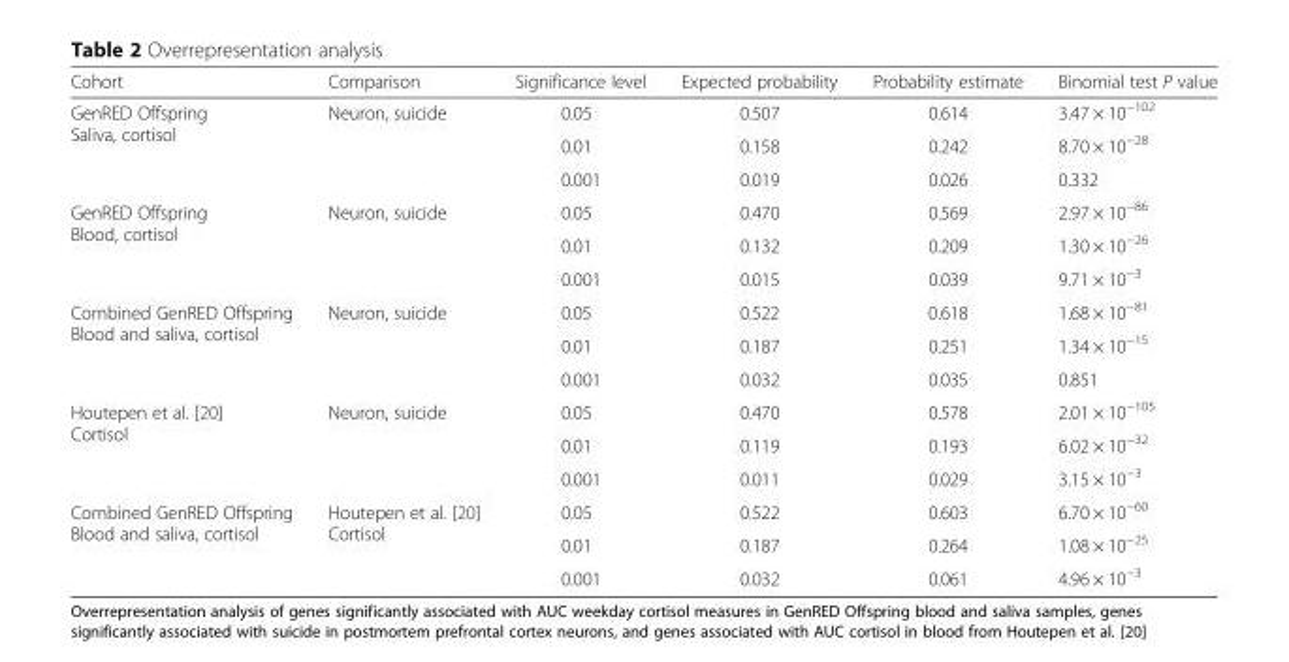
<table><thead><tr><td>Cohort</td><td>Comparison</td><td>Significance level</td><td>Expected probability</td><td>Probability estimate</td><td>Binomial test P value</td></tr></thead><tbody><tr><td rowspan="3">GenRED Offspring Saliva, cortisol</td><td rowspan="3">Neuron, suicide</td><td>0.05</td><td>0.507</td><td>0.614</td><td>3.47 × 10<sup>−102</sup></td></tr><tr><td>0.01</td><td>0.158</td><td>0.242</td><td>8.70 × 10<sup>−28</sup></td></tr><tr><td>0.001</td><td>0.019</td><td>0.026</td><td>0.332</td></tr><tr><td rowspan="3">GenRED Offspring Blood, cortisol</td><td rowspan="3">Neuron, suicide</td><td>0.05</td><td>0.470</td><td>0.569</td><td>2.97 × 10<sup>−86</sup></td></tr><tr><td>0.01</td><td>0.132</td><td>0.209</td><td>1.30 × 10<sup>−26</sup></td></tr><tr><td>0.001</td><td>0.015</td><td>0.039</td><td>9.71 × 10<sup>−3</sup></td></tr><tr><td rowspan="3">Combined GenRED Offspring Blood and saliva, cortisol</td><td rowspan="3">Neuron, suicide</td><td>0.05</td><td>0.522</td><td>0.618</td><td>1.68 × 10<sup>−81</sup></td></tr><tr><td>0.01</td><td>0.187</td><td>0.251</td><td>1.34 × 10<sup>−15</sup></td></tr><tr><td>0.001</td><td>0.032</td><td>0.035</td><td>0.851</td></tr><tr><td rowspan="3">Houtepen et al. [20] Cortisol</td><td rowspan="3">Neuron, suicide</td><td>0.05</td><td>0.470</td><td>0.578</td><td>2.01 × 10<sup>−105</sup></td></tr><tr><td>0.01</td><td>0.119</td><td>0.193</td><td>6.02 × 10<sup>−32</sup></td></tr><tr><td>0.001</td><td>0.011</td><td>0.029</td><td>3.15 × 10<sup>−3</sup></td></tr><tr><td rowspan="3">Combined GenRED Offspring Blood and saliva, cortisol</td><td rowspan="3">Houtepen et al. [20] Cortisol</td><td>0.05</td><td>0.522</td><td>0.603</td><td>6.70 × 10<sup>−60</sup></td></tr><tr><td>0.01</td><td>0.187</td><td>0.264</td><td>1.08 × 10<sup>−25</sup></td></tr><tr><td>0.001</td><td>0.032</td><td>0.061</td><td>4.96 × 10<sup>−3</sup></td></tr></tbody></table>